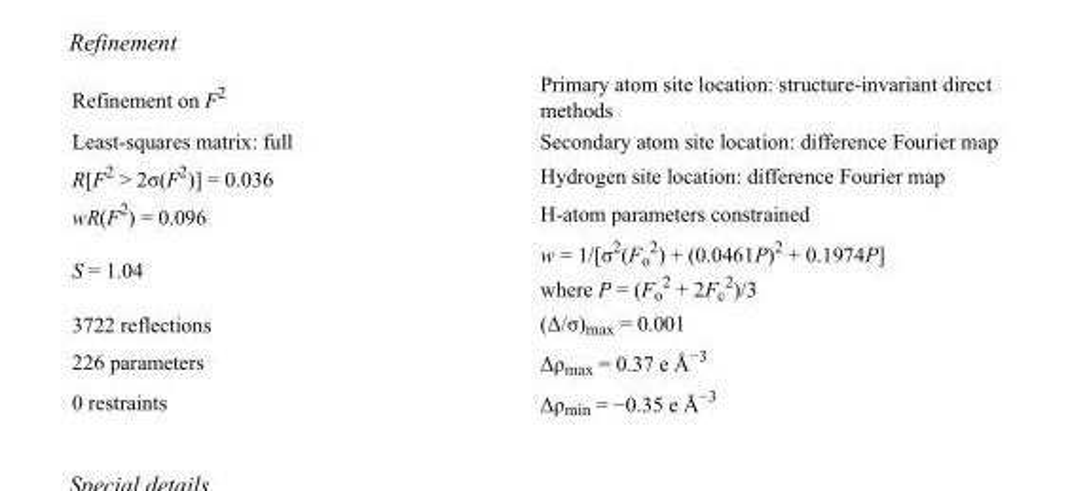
<table><tbody><tr><td>Refinement on F<sup>2</sup></td><td>Primary atom site location: structure-invariant direct methods</td></tr><tr><td>Least-squares matrix: full</td><td>Secondary atom site location: difference Fourier map</td></tr><tr><td>R[F<sup>2</sup> &gt; 2σ(F<sup>2</sup>)] = 0.036</td><td>Hydrogen site location: difference Fourier map</td></tr><tr><td>wR(F<sup>2</sup>) = 0.096</td><td>H-atom parameters constrained</td></tr><tr><td>S = 1.04</td><td>w = 1/[σ<sup>2</sup>(F<sub>o</sub> <sup>2</sup>) + (0.0461P)<sup>2</sup> + 0.1974P] where P = (F<sub>o</sub> <sup>2</sup> + 2F<sub>c</sub> <sup>2</sup>)/3</td></tr><tr><td>3722 reflections</td><td>(Δ/σ)<sub>max</sub> = 0.001</td></tr><tr><td>226 parameters</td><td>Δρ<sub>max</sub> = 0.37 e Å<sup>−3</sup></td></tr><tr><td>0 restraints</td><td>Δρ<sub>min</sub> = −0.35 e Å<sup>−3</sup></td></tr></tbody></table>